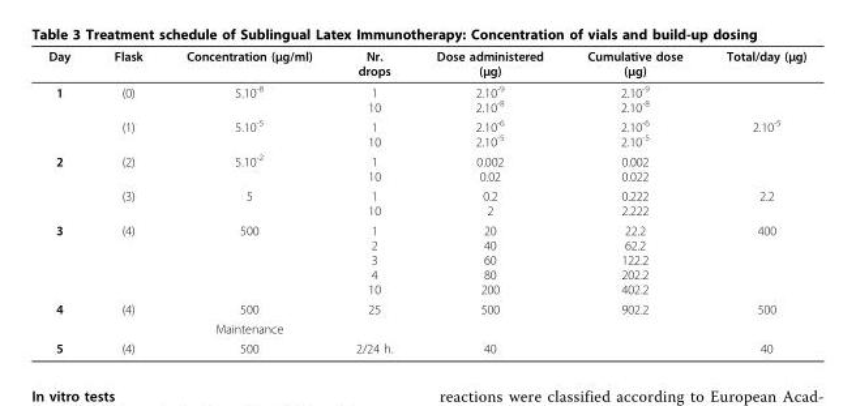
<table><thead><tr><td>Day</td><td>Flask</td><td>Concentration (μg/ml)</td><td>Nr. drops</td><td>Dose administered (μg)</td><td>Cumulative dose (μg)</td><td>Total/day (μg)</td></tr></thead><tbody><tr><td rowspan="2">1</td><td>(0)</td><td>5.10<sup>-8</sup></td><td>1 10</td><td>2.10<sup>-9</sup> 2.10<sup>-8</sup></td><td>2.10<sup>-9</sup> 2.10<sup>-8</sup></td><td></td></tr><tr><td>(1)</td><td>5.10<sup>-5</sup></td><td>1 10</td><td>2.10<sup>-6</sup> 2.10<sup>-5</sup></td><td>2.10<sup>-6</sup> 2.10<sup>-5</sup></td><td>2.10<sup>-5</sup></td></tr><tr><td rowspan="2">2</td><td>(2)</td><td>5.10<sup>-2</sup></td><td>1 10</td><td>0.002 0.02</td><td>0.002 0.022</td><td></td></tr><tr><td>(3)</td><td>5</td><td>1 10</td><td>0.2 2</td><td>0.222 2.222</td><td>2.2</td></tr><tr><td>3</td><td>(4)</td><td>500</td><td>1 2 3 4 10</td><td>20 40 60 80 200</td><td>22.2 62.2 122.2 202.2 402.2</td><td>400</td></tr><tr><td rowspan="2">4</td><td>(4)</td><td>500</td><td>25</td><td>500</td><td>902.2</td><td>500</td></tr><tr><td></td><td>Maintenance</td><td></td><td></td><td></td><td></td></tr><tr><td>5</td><td>(4)</td><td>500</td><td>2/24 h.</td><td>40</td><td></td><td>40</td></tr></tbody></table>